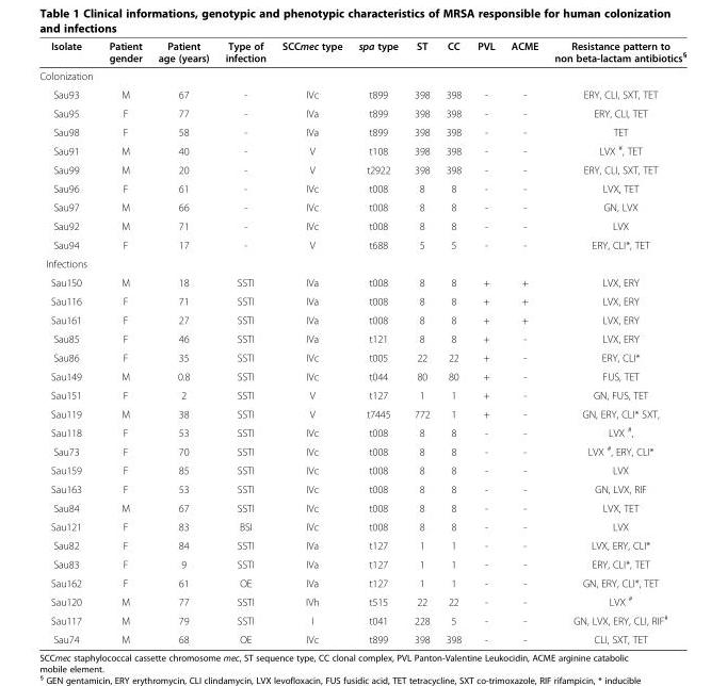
<table><thead><tr><td>Isolate</td><td>Patient gender</td><td>Patient age (years)</td><td>Type of infection</td><td>SCCmec type</td><td>spa type</td><td>ST</td><td>CC</td><td>PVL</td><td>ACME</td><td>Resistance pattern to non beta-lactam antibiotics<sup>§</sup></td></tr></thead><tbody><tr><td colspan="11">Colonization</td></tr><tr><td>Sau93</td><td>M</td><td>67</td><td>-</td><td>IVc</td><td>t899</td><td>398</td><td>398</td><td>-</td><td>-</td><td>ERY, CLI, SXT, TET</td></tr><tr><td>Sau95</td><td>F</td><td>77</td><td>-</td><td>IVa</td><td>t899</td><td>398</td><td>398</td><td>-</td><td>-</td><td>ERY, CLI, TET</td></tr><tr><td>Sau98</td><td>F</td><td>58</td><td>-</td><td>IVa</td><td>t899</td><td>398</td><td>398</td><td>-</td><td>-</td><td>TET</td></tr><tr><td>Sau91</td><td>M</td><td>40</td><td>-</td><td>V</td><td>t108</td><td>398</td><td>398</td><td>-</td><td>-</td><td>LVX <sup>#</sup>, TET</td></tr><tr><td>Sau99</td><td>M</td><td>20</td><td>-</td><td>V</td><td>t2922</td><td>398</td><td>398</td><td>-</td><td>-</td><td>ERY, CLI, SXT, TET</td></tr><tr><td>Sau96</td><td>F</td><td>61</td><td>-</td><td>IVc</td><td>t008</td><td>8</td><td>8</td><td>-</td><td>-</td><td>LVX, TET</td></tr><tr><td>Sau97</td><td>M</td><td>66</td><td>-</td><td>IVc</td><td>t008</td><td>8</td><td>8</td><td>-</td><td>-</td><td>GN, LVX</td></tr><tr><td>Sau92</td><td>M</td><td>71</td><td>-</td><td>IVc</td><td>t008</td><td>8</td><td>8</td><td>-</td><td>-</td><td>LVX</td></tr><tr><td>Sau94</td><td>F</td><td>17</td><td>-</td><td>V</td><td>t688</td><td>5</td><td>5</td><td>-</td><td>-</td><td>ERY, CLI*, TET</td></tr><tr><td colspan="11">Infections</td></tr><tr><td>Sau150</td><td>M</td><td>18</td><td>SSTI</td><td>IVa</td><td>t008</td><td>8</td><td>8</td><td>+</td><td>+</td><td>LVX, ERY</td></tr><tr><td>Sau116</td><td>F</td><td>71</td><td>SSTI</td><td>IVa</td><td>t008</td><td>8</td><td>8</td><td>+</td><td>+</td><td>LVX, ERY</td></tr><tr><td>Sau161</td><td>F</td><td>27</td><td>SSTI</td><td>IVa</td><td>t008</td><td>8</td><td>8</td><td>+</td><td>+</td><td>LVX, ERY</td></tr><tr><td>Sau85</td><td>F</td><td>46</td><td>SSTI</td><td>IVa</td><td>t121</td><td>8</td><td>8</td><td>+</td><td>-</td><td>LVX, ERY</td></tr><tr><td>Sau86</td><td>F</td><td>35</td><td>SSTI</td><td>IVc</td><td>t005</td><td>22</td><td>22</td><td>+</td><td>-</td><td>ERY, CLI*</td></tr><tr><td>Sau149</td><td>M</td><td>0.8</td><td>SSTI</td><td>IVc</td><td>t044</td><td>80</td><td>80</td><td>+</td><td>-</td><td>FUS, TET</td></tr><tr><td>Sau151</td><td>F</td><td>2</td><td>SSTI</td><td>V</td><td>t127</td><td>1</td><td>1</td><td>+</td><td>-</td><td>GN, FUS, TET</td></tr><tr><td>Sau119</td><td>M</td><td>38</td><td>SSTI</td><td>V</td><td>t7445</td><td>772</td><td>1</td><td>+</td><td>-</td><td>GN, ERY, CLI* SXT,</td></tr><tr><td>Sau118</td><td>F</td><td>53</td><td>SSTI</td><td>IVc</td><td>t008</td><td>8</td><td>8</td><td>-</td><td>-</td><td>LVX <sup>#</sup>,</td></tr><tr><td>Sau73</td><td>F</td><td>70</td><td>SSTI</td><td>IVc</td><td>t008</td><td>8</td><td>8</td><td>-</td><td>-</td><td>LVX <sup>#</sup>, ERY, CLI*</td></tr><tr><td>Sau159</td><td>F</td><td>85</td><td>SSTI</td><td>IVc</td><td>t008</td><td>8</td><td>8</td><td>-</td><td>-</td><td>LVX</td></tr><tr><td>Sau163</td><td>F</td><td>53</td><td>SSTI</td><td>IVc</td><td>t008</td><td>8</td><td>8</td><td>-</td><td>-</td><td>GN, LVX, RIF</td></tr><tr><td>Sau84</td><td>M</td><td>67</td><td>SSTI</td><td>IVc</td><td>t008</td><td>8</td><td>8</td><td>-</td><td>-</td><td>LVX, TET</td></tr><tr><td>Sau121</td><td>F</td><td>83</td><td>BSI</td><td>IVc</td><td>t008</td><td>8</td><td>8</td><td>-</td><td>-</td><td>LVX</td></tr><tr><td>Sau82</td><td>F</td><td>84</td><td>SSTI</td><td>IVa</td><td>t127</td><td>1</td><td>1</td><td>-</td><td>-</td><td>LVX, ERY, CLI*</td></tr><tr><td>Sau83</td><td>F</td><td>9</td><td>SSTI</td><td>IVa</td><td>t127</td><td>1</td><td>1</td><td>-</td><td>-</td><td>ERY, CLI*, TET</td></tr><tr><td>Sau162</td><td>F</td><td>61</td><td>OE</td><td>IVa</td><td>t127</td><td>1</td><td>1</td><td>-</td><td>-</td><td>GN, ERY, CLI*, TET</td></tr><tr><td>Sau120</td><td>M</td><td>77</td><td>SSTI</td><td>IVh</td><td>t515</td><td>22</td><td>22</td><td>-</td><td>-</td><td>LVX <sup>#</sup></td></tr><tr><td>Sau117</td><td>M</td><td>79</td><td>SSTI</td><td>I</td><td>t041</td><td>228</td><td>5</td><td>-</td><td>-</td><td>GN, LVX, ERY, CLI, RIF<sup>#</sup></td></tr><tr><td>Sau74</td><td>M</td><td>68</td><td>OE</td><td>IVc</td><td>t899</td><td>398</td><td>398</td><td>-</td><td>-</td><td>CLI, SXT, TET</td></tr></tbody></table>